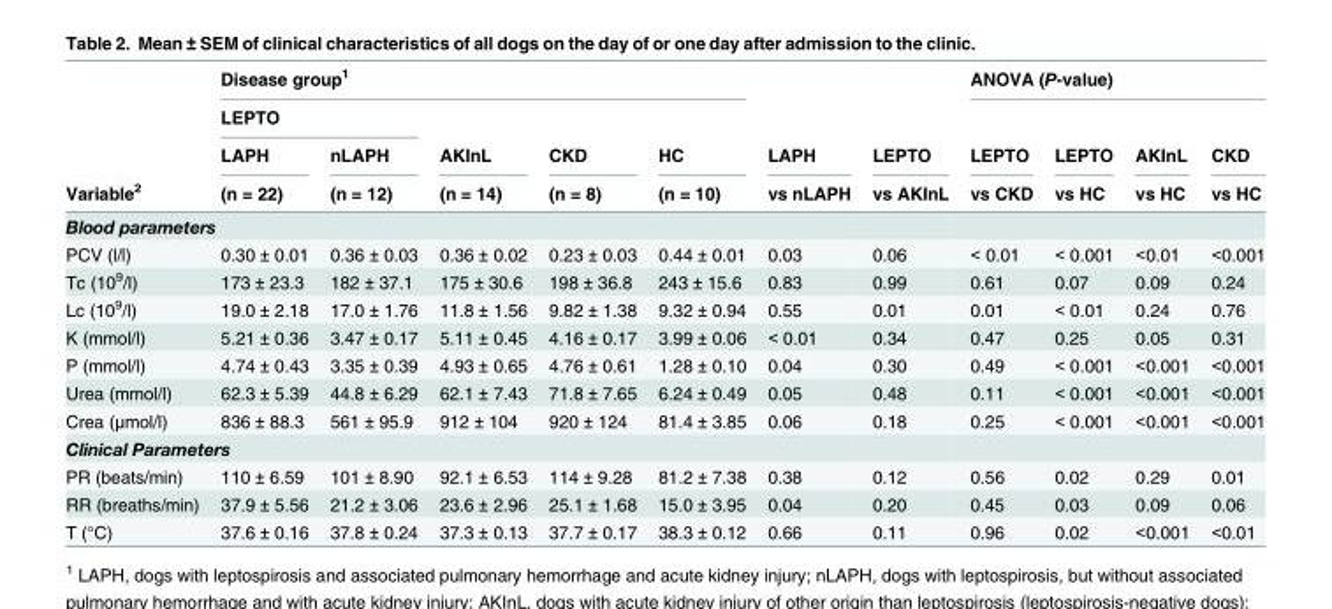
<table><thead><tr><td rowspan="4">Variable<sup>2</sup></td><td colspan="5">Disease group<sup>1</sup></td><td rowspan="4">LAPH vs nLAPH</td><td rowspan="4">LEPTO vs AKInL</td><td colspan="4">ANOVA (P-value)</td></tr><tr><td colspan="2">LEPTO</td><td rowspan="3">AKInL (n = 14)</td><td rowspan="3">CKD (n = 8)</td><td rowspan="3">HC (n = 10)</td><td rowspan="3">LEPTO vs CKD</td><td rowspan="3">LEPTO vs HC</td><td rowspan="3">AKInL vs HC</td><td rowspan="3">CKD vs HC</td></tr><tr><td rowspan="2">LAPH (n = 22)</td><td rowspan="2">nLAPH (n = 12)</td></tr><tr></tr></thead><tbody><tr><td colspan="12">Blood parameters</td></tr><tr><td>PCV (l/l)</td><td>0.30 ± 0.01</td><td>0.36 ± 0.03</td><td>0.36 ± 0.02</td><td>0.23 ± 0.03</td><td>0.44 ± 0.01</td><td>0.03</td><td>0.06</td><td>&lt; 0.01</td><td>&lt; 0.001</td><td>&lt;0.01</td><td>&lt;0.001</td></tr><tr><td>Tc (10<sup>9</sup>/l)</td><td>173 ± 23.3</td><td>182 ± 37.1</td><td>175 ± 30.6</td><td>198 ± 36.8</td><td>243 ± 15.6</td><td>0.83</td><td>0.99</td><td>0.61</td><td>0.07</td><td>0.09</td><td>0.24</td></tr><tr><td>Lc (10<sup>9</sup>/l)</td><td>19.0 ± 2.18</td><td>17.0 ± 1.76</td><td>11.8 ± 1.56</td><td>9.82 ± 1.38</td><td>9.32 ± 0.94</td><td>0.55</td><td>0.01</td><td>0.01</td><td>&lt; 0.01</td><td>0.24</td><td>0.76</td></tr><tr><td>K (mmol/l)</td><td>5.21 ± 0.36</td><td>3.47 ± 0.17</td><td>5.11 ± 0.45</td><td>4.16 ± 0.17</td><td>3.99 ± 0.06</td><td>&lt; 0.01</td><td>0.34</td><td>0.47</td><td>0.25</td><td>0.05</td><td>0.31</td></tr><tr><td>P (mmol/l)</td><td>4.74 ± 0.43</td><td>3.35 ± 0.39</td><td>4.93 ± 0.65</td><td>4.76 ± 0.61</td><td>1.28 ± 0.10</td><td>0.04</td><td>0.30</td><td>0.49</td><td>&lt; 0.001</td><td>&lt;0.001</td><td>&lt;0.001</td></tr><tr><td>Urea (mmol/l)</td><td>62.3 ± 5.39</td><td>44.8 ± 6.29</td><td>62.1 ± 7.43</td><td>71.8 ± 7.65</td><td>6.24 ± 0.49</td><td>0.05</td><td>0.48</td><td>0.11</td><td>&lt; 0.001</td><td>&lt;0.001</td><td>&lt;0.001</td></tr><tr><td>Crea (μmol/l)</td><td>836 ± 88.3</td><td>561 ± 95.9</td><td>912 ± 104</td><td>920 ± 124</td><td>81.4 ± 3.85</td><td>0.06</td><td>0.18</td><td>0.25</td><td>&lt; 0.001</td><td>&lt;0.001</td><td>&lt;0.001</td></tr><tr><td colspan="12">Clinical Parameters</td></tr><tr><td>PR (beats/min)</td><td>110 ± 6.59</td><td>101 ± 8.90</td><td>92.1 ± 6.53</td><td>114 ± 9.28</td><td>81.2 ± 7.38</td><td>0.38</td><td>0.12</td><td>0.56</td><td>0.02</td><td>0.29</td><td>0.01</td></tr><tr><td>RR (breaths/min)</td><td>37.9 ± 5.56</td><td>21.2 ± 3.06</td><td>23.6 ± 2.96</td><td>25.1 ± 1.68</td><td>15.0 ± 3.95</td><td>0.04</td><td>0.20</td><td>0.45</td><td>0.03</td><td>0.09</td><td>0.06</td></tr><tr><td>T (°C)</td><td>37.6 ± 0.16</td><td>37.8 ± 0.24</td><td>37.3 ± 0.13</td><td>37.7 ± 0.17</td><td>38.3 ± 0.12</td><td>0.66</td><td>0.11</td><td>0.96</td><td>0.02</td><td>&lt;0.001</td><td>&lt;0.01</td></tr></tbody></table>